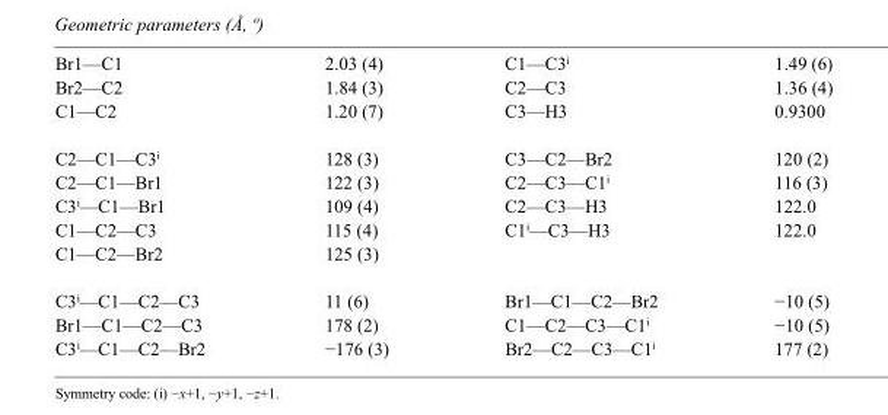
<table><tbody><tr><td>Br1—C1</td><td>2.03 (4)</td><td>C1—C3<sup>i</sup></td><td>1.49 (6)</td></tr><tr><td>Br2—C2</td><td>1.84 (3)</td><td>C2—C3</td><td>1.36 (4)</td></tr><tr><td>C1—C2</td><td>1.20 (7)</td><td>C3—H3</td><td>0.9300</td></tr><tr><td>C2—C1—C3<sup>i</sup></td><td>128 (3)</td><td>C3—C2—Br2</td><td>120 (2)</td></tr><tr><td>C2—C1—Br1</td><td>122 (3)</td><td>C2—C3—C1<sup>i</sup></td><td>116 (3)</td></tr><tr><td>C3<sup>i</sup>—C1—Br1</td><td>109 (4)</td><td>C2—C3—H3</td><td>122.0</td></tr><tr><td>C1—C2—C3</td><td>115 (4)</td><td>C1<sup>i</sup>—C3—H3</td><td>122.0</td></tr><tr><td>C1—C2—Br2</td><td>125 (3)</td><td></td><td></td></tr><tr><td>C3<sup>i</sup>—C1—C2—C3</td><td>11 (6)</td><td>Br1—C1—C2—Br2</td><td>−10 (5)</td></tr><tr><td>Br1—C1—C2—C3</td><td>178 (2)</td><td>C1—C2—C3—C1<sup>i</sup></td><td>−10 (5)</td></tr><tr><td>C3<sup>i</sup>—C1—C2—Br2</td><td>−176 (3)</td><td>Br2—C2—C3—C1<sup>i</sup></td><td>177 (2)</td></tr></tbody></table>